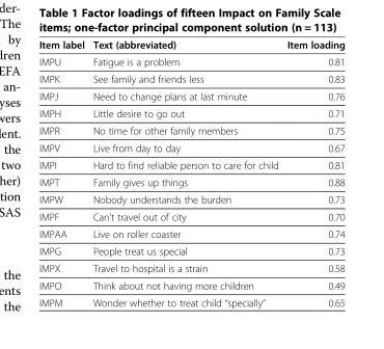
<table><thead><tr><td>Item label</td><td>Text (abbreviated)</td><td>Item loading</td></tr></thead><tbody><tr><td>IMPU</td><td>Fatigue is a problem</td><td>0.81</td></tr><tr><td>IMPK</td><td>See family and friends less</td><td>0.83</td></tr><tr><td>IMPJ</td><td>Need to change plans at last minute</td><td>0.76</td></tr><tr><td>IMPH</td><td>Little desire to go out</td><td>0.71</td></tr><tr><td>IMPR</td><td>No time for other family members</td><td>0.75</td></tr><tr><td>IMPV</td><td>Live from day to day</td><td>0.67</td></tr><tr><td>IMPI</td><td>Hard to find reliable person to care for child</td><td>0.81</td></tr><tr><td>IMPT</td><td>Family gives up things</td><td>0.88</td></tr><tr><td>IMPW</td><td>Nobody understands the burden</td><td>0.73</td></tr><tr><td>IMPF</td><td>Can’t travel out of city</td><td>0.70</td></tr><tr><td>IMPAA</td><td>Live on roller coaster</td><td>0.74</td></tr><tr><td>IMPG</td><td>People treat us special</td><td>0.73</td></tr><tr><td>IMPX</td><td>Travel to hospital is a strain</td><td>0.58</td></tr><tr><td>IMPO</td><td>Think about not having more children</td><td>0.49</td></tr><tr><td>IMPM</td><td>Wonder whether to treat child “specially”</td><td>0.65</td></tr></tbody></table>